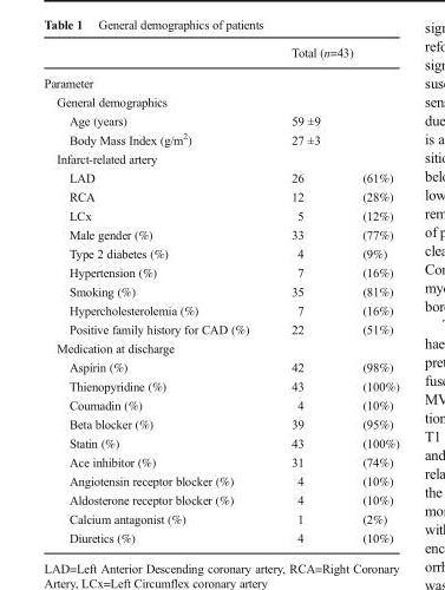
<table><thead><tr><td></td><td colspan="2">Total (n=43)</td></tr><tr><td rowspan="2" colspan="3">Parameter General demographics</td></tr><tr></tr><tr><td>Age (years)</td><td>59 ±9</td><td></td></tr></thead><tbody><tr><td>Body Mass Index (g/m<sup>2</sup>)</td><td>27 ±3</td><td></td></tr><tr><td colspan="3">Infarct-related artery</td></tr><tr><td>LAD</td><td>26</td><td>(61%)</td></tr><tr><td>RCA</td><td>12</td><td>(28%)</td></tr><tr><td>LCx</td><td>5</td><td>(12%)</td></tr><tr><td>Male gender (%)</td><td>33</td><td>(77%)</td></tr><tr><td>Type 2 diabetes (%)</td><td>4</td><td>(9%)</td></tr><tr><td>Hypertension (%)</td><td>7</td><td>(16%)</td></tr><tr><td>Smoking (%)</td><td>35</td><td>(81%)</td></tr><tr><td>Hypercholesterolemia (%)</td><td>7</td><td>(16%)</td></tr><tr><td>Positive family history for CAD (%)</td><td>22</td><td>(51%)</td></tr><tr><td colspan="3">Medication at discharge</td></tr><tr><td>Aspirin (%)</td><td>42</td><td>(98%)</td></tr><tr><td>Thienopyridine (%)</td><td>43</td><td>(100%)</td></tr><tr><td>Coumadin (%)</td><td>4</td><td>(10%)</td></tr><tr><td>Beta blocker (%)</td><td>39</td><td>(95%)</td></tr><tr><td>Statin (%)</td><td>43</td><td>(100%)</td></tr><tr><td>Ace inhibitor (%)</td><td>31</td><td>(74%)</td></tr><tr><td>Angiotensin receptor blocker (%)</td><td>4</td><td>(10%)</td></tr><tr><td>Aldosterone receptor blocker (%)</td><td>4</td><td>(10%)</td></tr><tr><td>Calcium antagonist (%)</td><td>1</td><td>(2%)</td></tr><tr><td>Diuretics (%)</td><td>4</td><td>(10%)</td></tr></tbody></table>